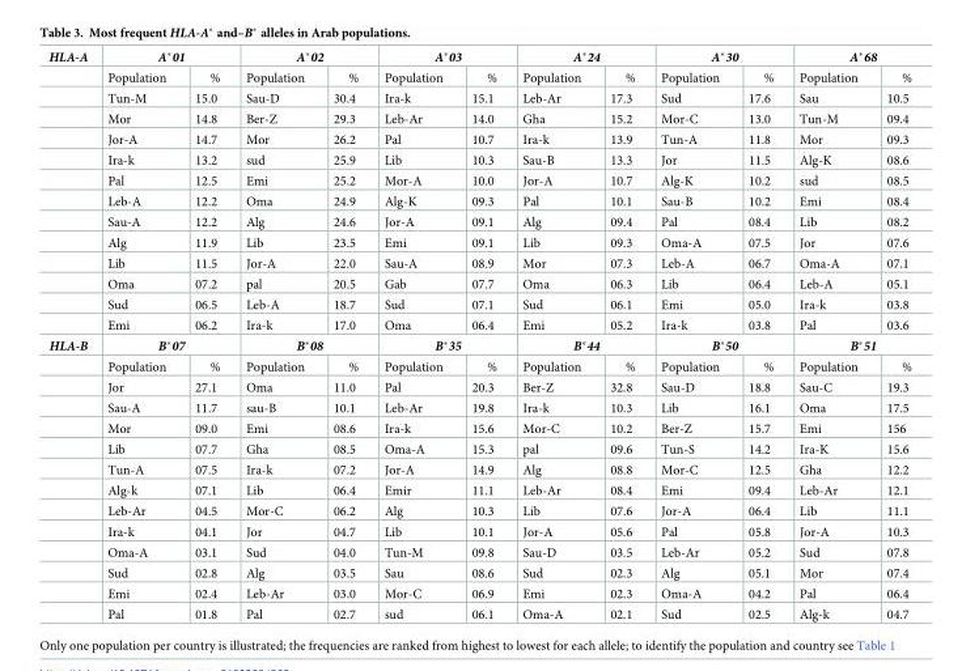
<table><tbody><tr><td rowspan="14">HLA-A</td><td colspan="2">A*01</td><td colspan="2">A*02</td><td colspan="2">A*03</td><td colspan="2">A*24</td><td colspan="2">A*30</td><td colspan="2">A*68</td></tr><tr><td>Population</td><td>%</td><td>Population</td><td>%</td><td>Population</td><td>%</td><td>Population</td><td>%</td><td>Population</td><td>%</td><td>Population</td><td>%</td></tr><tr><td>Tun-M</td><td>15.0</td><td>Sau-D</td><td>30.4</td><td>Ira-k</td><td>15.1</td><td>Leb-Ar</td><td>17.3</td><td>Sud</td><td>17.6</td><td>Sau</td><td>10.5</td></tr><tr><td>Mor</td><td>14.8</td><td>Ber-Z</td><td>29.3</td><td>Leb-Ar</td><td>14.0</td><td>Gha</td><td>15.2</td><td>Mor-C</td><td>13.0</td><td>Tun-M</td><td>09.4</td></tr><tr><td>Jor-A</td><td>14.7</td><td>Mor</td><td>26.2</td><td>Pal</td><td>10.7</td><td>Ira-k</td><td>13.9</td><td>Tun-A</td><td>11.8</td><td>Mor</td><td>09.3</td></tr><tr><td>Ira-k</td><td>13.2</td><td>sud</td><td>25.9</td><td>Lib</td><td>10.3</td><td>Sau-B</td><td>13.3</td><td>Jor</td><td>11.5</td><td>Alg-K</td><td>08.6</td></tr><tr><td>Pal</td><td>12.5</td><td>Emi</td><td>25.2</td><td>Mor-A</td><td>10.0</td><td>Jor-A</td><td>10.7</td><td>Alg-K</td><td>10.2</td><td>sud</td><td>08.5</td></tr><tr><td>Leb-A</td><td>12.2</td><td>Oma</td><td>24.9</td><td>Alg-K</td><td>09.3</td><td>Pal</td><td>10.1</td><td>Sau-B</td><td>10.2</td><td>Emi</td><td>08.4</td></tr><tr><td>Sau-A</td><td>12.2</td><td>Alg</td><td>24.6</td><td>Jor-A</td><td>09.1</td><td>Alg</td><td>09.4</td><td>Pal</td><td>08.4</td><td>Lib</td><td>08.2</td></tr><tr><td>Alg</td><td>11.9</td><td>Lib</td><td>23.5</td><td>Emi</td><td>09.1</td><td>Lib</td><td>09.3</td><td>Oma-A</td><td>07.5</td><td>Jor</td><td>07.6</td></tr><tr><td>Lib</td><td>11.5</td><td>Jor-A</td><td>22.0</td><td>Sau-A</td><td>08.9</td><td>Mor</td><td>07.3</td><td>Leb-A</td><td>06.7</td><td>Oma-A</td><td>07.1</td></tr><tr><td>Oma</td><td>07.2</td><td>pal</td><td>20.5</td><td>Gab</td><td>07.7</td><td>Oma</td><td>06.3</td><td>Lib</td><td>06.4</td><td>Leb-A</td><td>05.1</td></tr><tr><td>Sud</td><td>06.5</td><td>Leb-A</td><td>18.7</td><td>Sud</td><td>07.1</td><td>Sud</td><td>06.1</td><td>Emi</td><td>05.0</td><td>Ira-k</td><td>03.8</td></tr><tr><td>Emi</td><td>06.2</td><td>Ira-k</td><td>17.0</td><td>Oma</td><td>06.4</td><td>Emi</td><td>05.2</td><td>Ira-k</td><td>03.8</td><td>Pal</td><td>03.6</td></tr><tr><td rowspan="14">HLA-B</td><td colspan="2">B*07</td><td colspan="2">B*08</td><td colspan="2">B*35</td><td colspan="2">B*44</td><td colspan="2">B*50</td><td colspan="2">B*51</td></tr><tr><td>Population</td><td>%</td><td>Population</td><td>%</td><td>Population</td><td>%</td><td>Population</td><td>%</td><td>Population</td><td>%</td><td>Population</td><td>%</td></tr><tr><td>Jor</td><td>27.1</td><td>Oma</td><td>11.0</td><td>Pal</td><td>20.3</td><td>Ber-Z</td><td>32.8</td><td>Sau-D</td><td>18.8</td><td>Sau-C</td><td>19.3</td></tr><tr><td>Sau-A</td><td>11.7</td><td>sau-B</td><td>10.1</td><td>Leb-Ar</td><td>19.8</td><td>Ira-k</td><td>10.3</td><td>Lib</td><td>16.1</td><td>Oma</td><td>17.5</td></tr><tr><td>Mor</td><td>09.0</td><td>Emi</td><td>08.6</td><td>Ira-k</td><td>15.6</td><td>Mor-C</td><td>10.2</td><td>Ber-Z</td><td>15.7</td><td>Emi</td><td>156</td></tr><tr><td>Lib</td><td>07.7</td><td>Gha</td><td>08.5</td><td>Oma-A</td><td>15.3</td><td>pal</td><td>09.6</td><td>Tun-S</td><td>14.2</td><td>Ira-K</td><td>15.6</td></tr><tr><td>Tun-A</td><td>07.5</td><td>Ira-k</td><td>07.2</td><td>Jor-A</td><td>14.9</td><td>Alg</td><td>08.8</td><td>Mor-C</td><td>12.5</td><td>Gha</td><td>12.2</td></tr><tr><td>Alg-k</td><td>07.1</td><td>Lib</td><td>06.4</td><td>Emir</td><td>11.1</td><td>Leb-Ar</td><td>08.4</td><td>Emi</td><td>09.4</td><td>Leb-Ar</td><td>12.1</td></tr><tr><td>Leb-Ar</td><td>04.5</td><td>Mor-C</td><td>06.2</td><td>Alg</td><td>10.3</td><td>Lib</td><td>07.6</td><td>Jor-A</td><td>06.4</td><td>Lib</td><td>11.1</td></tr><tr><td>Ira-k</td><td>04.1</td><td>Jor</td><td>04.7</td><td>Lib</td><td>10.1</td><td>Jor-A</td><td>05.6</td><td>Pal</td><td>05.8</td><td>Jor-A</td><td>10.3</td></tr><tr><td>Oma-A</td><td>03.1</td><td>Sud</td><td>04.0</td><td>Tun-M</td><td>09.8</td><td>Sau-D</td><td>03.5</td><td>Leb-Ar</td><td>05.2</td><td>Sud</td><td>07.8</td></tr><tr><td>Sud</td><td>02.8</td><td>Alg</td><td>03.5</td><td>Sau</td><td>08.6</td><td>Sud</td><td>02.3</td><td>Alg</td><td>05.1</td><td>Mor</td><td>07.4</td></tr><tr><td>Emi</td><td>02.4</td><td>Leb-Ar</td><td>03.0</td><td>Mor-C</td><td>06.9</td><td>Emi</td><td>02.3</td><td>Oma-A</td><td>04.2</td><td>Pal</td><td>06.4</td></tr><tr><td>Pal</td><td>01.8</td><td>Pal</td><td>02.7</td><td>sud</td><td>06.1</td><td>Oma-A</td><td>02.1</td><td>Sud</td><td>02.5</td><td>Alg-k</td><td>04.7</td></tr></tbody></table>